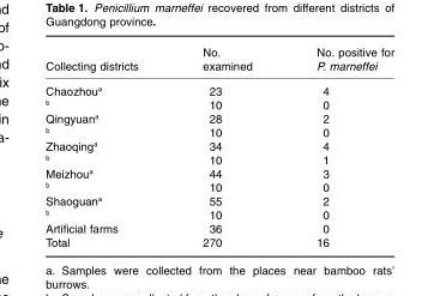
<table><thead><tr><td>Collecting districts</td><td>No. examined</td><td>No. positive for P. marneffei</td></tr></thead><tbody><tr><td>Chaozhou<sup>a</sup></td><td>23</td><td>4</td></tr><tr><td>b</td><td>10</td><td>0</td></tr><tr><td>Qingyuan<sup>a</sup></td><td>28</td><td>2</td></tr><tr><td>b</td><td>10</td><td>0</td></tr><tr><td>Zhaoqing<sup>a</sup></td><td>34</td><td>4</td></tr><tr><td>b</td><td>10</td><td>1</td></tr><tr><td>Meizhou<sup>a</sup></td><td>44</td><td>3</td></tr><tr><td>b</td><td>10</td><td>0</td></tr><tr><td>Shaoguan<sup>a</sup></td><td>55</td><td>2</td></tr><tr><td>b</td><td>10</td><td>0</td></tr><tr><td>Artificial farms</td><td>36</td><td>0</td></tr><tr><td>Total</td><td>270</td><td>16</td></tr></tbody></table>